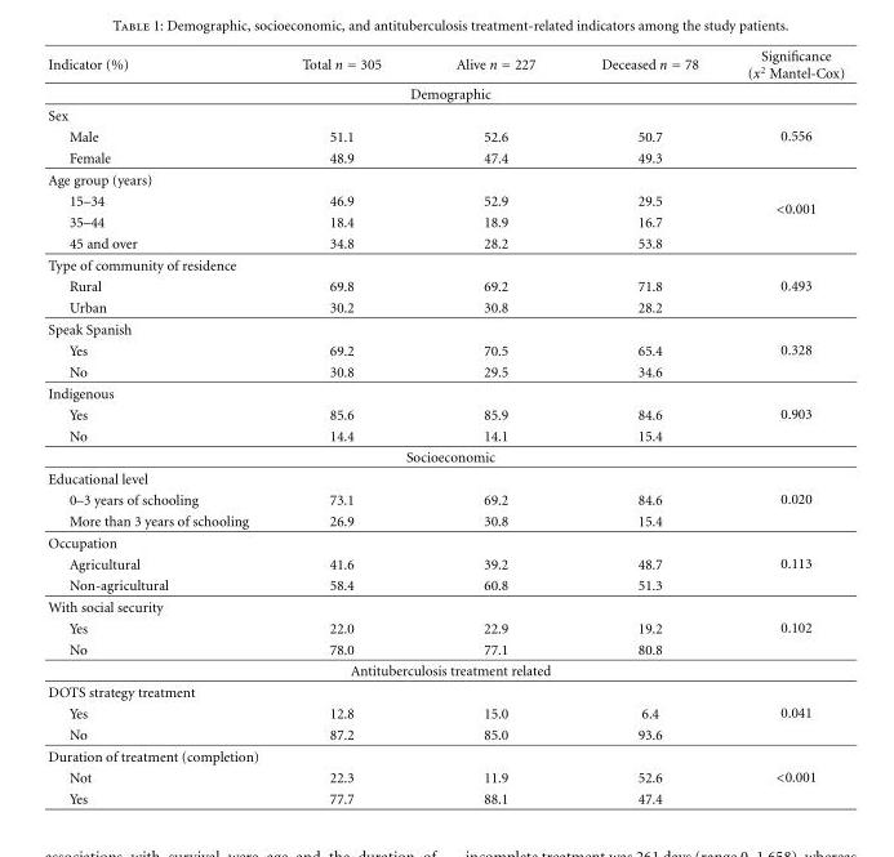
<table><thead><tr><td>Indicator (%)</td><td>Total n = 305</td><td>Alive n = 227</td><td>Deceased n = 78</td><td>Significance (x<sup>2</sup> Mantel-Cox)</td></tr></thead><tbody><tr><td colspan="5">Demographic</td></tr><tr><td colspan="4">Sex</td><td rowspan="3">0.556</td></tr><tr><td>Male</td><td>51.1</td><td>52.6</td><td>50.7</td></tr><tr><td>Female</td><td>48.9</td><td>47.4</td><td>49.3</td></tr><tr><td colspan="4">Age group (years)</td><td rowspan="4">&lt;0.001</td></tr><tr><td>15–34</td><td>46.9</td><td>52.9</td><td>29.5</td></tr><tr><td>35–44</td><td>18.4</td><td>18.9</td><td>16.7</td></tr><tr><td>45 and over</td><td>34.8</td><td>28.2</td><td>53.8</td></tr><tr><td colspan="4">Type of community of residence</td><td rowspan="3">0.493</td></tr><tr><td>Rural</td><td>69.8</td><td>69.2</td><td>71.8</td></tr><tr><td>Urban</td><td>30.2</td><td>30.8</td><td>28.2</td></tr><tr><td colspan="4">Speak Spanish</td><td rowspan="3">0.328</td></tr><tr><td>Yes</td><td>69.2</td><td>70.5</td><td>65.4</td></tr><tr><td>No</td><td>30.8</td><td>29.5</td><td>34.6</td></tr><tr><td colspan="4">Indigenous</td><td rowspan="3">0.903</td></tr><tr><td>Yes</td><td>85.6</td><td>85.9</td><td>84.6</td></tr><tr><td>No</td><td>14.4</td><td>14.1</td><td>15.4</td></tr><tr><td colspan="5">Socioeconomic</td></tr><tr><td colspan="4">Educational level</td><td rowspan="3">0.020</td></tr><tr><td>0–3 years of schooling</td><td>73.1</td><td>69.2</td><td>84.6</td></tr><tr><td>More than 3 years of schooling</td><td>26.9</td><td>30.8</td><td>15.4</td></tr><tr><td colspan="4">Occupation</td><td rowspan="3">0.113</td></tr><tr><td>Agricultural</td><td>41.6</td><td>39.2</td><td>48.7</td></tr><tr><td>Non-agricultural</td><td>58.4</td><td>60.8</td><td>51.3</td></tr><tr><td colspan="4">With social security</td><td rowspan="3">0.102</td></tr><tr><td>Yes</td><td>22.0</td><td>22.9</td><td>19.2</td></tr><tr><td>No</td><td>78.0</td><td>77.1</td><td>80.8</td></tr><tr><td colspan="5">Antituberculosis treatment related</td></tr><tr><td colspan="4">DOTS strategy treatment</td><td rowspan="3">0.041</td></tr><tr><td>Yes</td><td>12.8</td><td>15.0</td><td>6.4</td></tr><tr><td>No</td><td>87.2</td><td>85.0</td><td>93.6</td></tr><tr><td colspan="4">Duration of treatment (completion)</td><td rowspan="3">&lt;0.001</td></tr><tr><td>Not</td><td>22.3</td><td>11.9</td><td>52.6</td></tr><tr><td>Yes</td><td>77.7</td><td>88.1</td><td>47.4</td></tr></tbody></table>